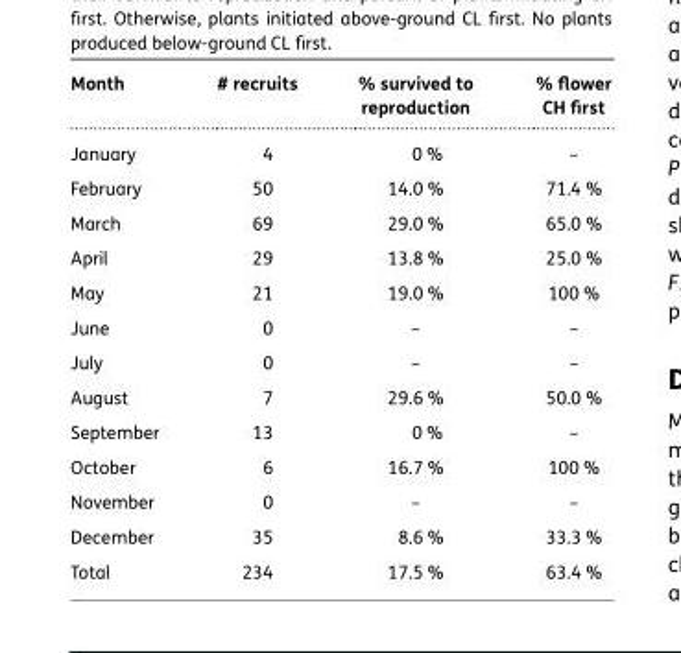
<table><thead><tr><td>Month</td><td># recruits</td><td>% survived to reproduction</td><td>% flower CH first</td></tr></thead><tbody><tr><td>January</td><td>4</td><td>0 %</td><td>–</td></tr><tr><td>February</td><td>50</td><td>14.0 %</td><td>71.4 %</td></tr><tr><td>March</td><td>69</td><td>29.0 %</td><td>65.0 %</td></tr><tr><td>April</td><td>29</td><td>13.8 %</td><td>25.0 %</td></tr><tr><td>May</td><td>21</td><td>19.0 %</td><td>100 %</td></tr><tr><td>June</td><td>0</td><td>–</td><td>–</td></tr><tr><td>July</td><td>0</td><td>–</td><td>–</td></tr><tr><td>August</td><td>7</td><td>29.6 %</td><td>50.0 %</td></tr><tr><td>September</td><td>13</td><td>0 %</td><td>–</td></tr><tr><td>October</td><td>6</td><td>16.7 %</td><td>100 %</td></tr><tr><td>November</td><td>0</td><td>–</td><td>–</td></tr><tr><td>December</td><td>35</td><td>8.6 %</td><td>33.3 %</td></tr><tr><td>Total</td><td>234</td><td>17.5 %</td><td>63.4 %</td></tr></tbody></table>